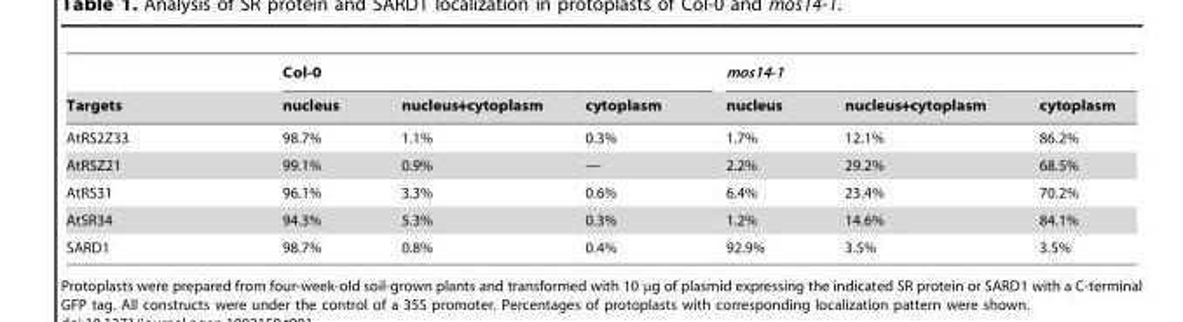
<table><thead><tr><td rowspan="2">Targets</td><td colspan="3">Col-0</td><td colspan="3">mos14-1</td></tr><tr><td>nucleus</td><td>nucleus+cytoplasm</td><td>cytoplasm</td><td>nucleus</td><td>nucleus+cytoplasm</td><td>cytoplasm</td></tr></thead><tbody><tr><td>AtRS2Z33</td><td>98.7%</td><td>1.1%</td><td>0.3%</td><td>1.7%</td><td>12.1%</td><td>86.2%</td></tr><tr><td>AtRSZ21</td><td>99.1%</td><td>0.9%</td><td>—</td><td>2.2%</td><td>29.2%</td><td>68.5%</td></tr><tr><td>AtRS31</td><td>96.1%</td><td>3.3%</td><td>0.6%</td><td>6.4%</td><td>23.4%</td><td>70.2%</td></tr><tr><td>AtSR34</td><td>94.3%</td><td>5.3%</td><td>0.3%</td><td>1.2%</td><td>14.6%</td><td>84.1%</td></tr><tr><td>SARD1</td><td>98.7%</td><td>0.8%</td><td>0.4%</td><td>92.9%</td><td>3.5%</td><td>3.5%</td></tr></tbody></table>